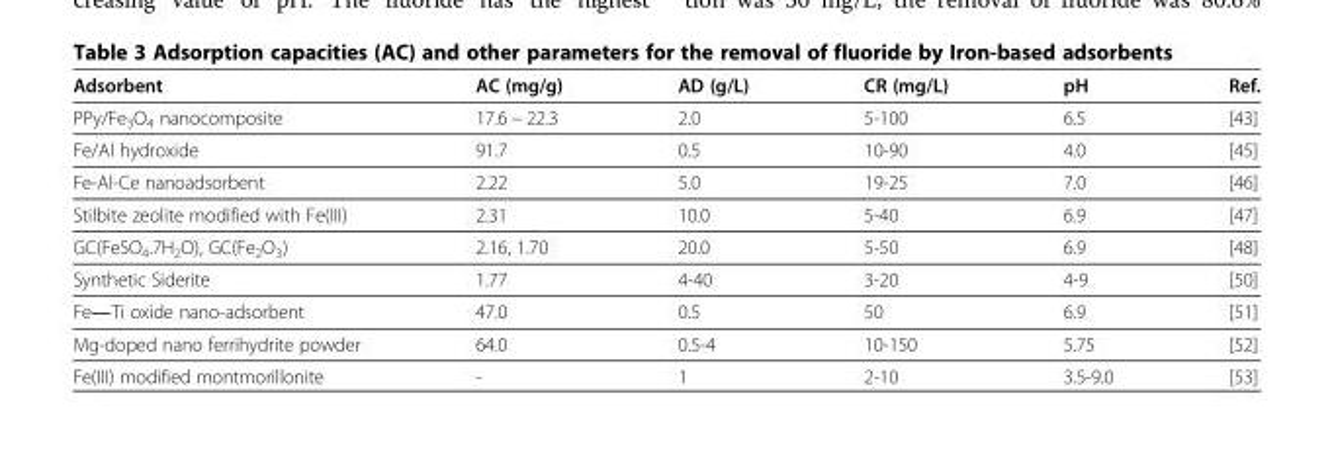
<table><thead><tr><td>Adsorbent</td><td>AC (mg/g)</td><td>AD (g/L)</td><td>CR (mg/L)</td><td>pH</td><td>Ref.</td></tr></thead><tbody><tr><td>PPy/Fe<sub>3</sub>O<sub>4</sub> nanocomposite</td><td>17.6 − 22.3</td><td>2.0</td><td>5-100</td><td>6.5</td><td>[43]</td></tr><tr><td>Fe/Al hydroxide</td><td>91.7</td><td>0.5</td><td>10-90</td><td>4.0</td><td>[45]</td></tr><tr><td>Fe-Al-Ce nanoadsorbent</td><td>2.22</td><td>5.0</td><td>19-25</td><td>7.0</td><td>[46]</td></tr><tr><td>Stilbite zeolite modified with Fe(III)</td><td>2.31</td><td>10.0</td><td>5-40</td><td>6.9</td><td>[47]</td></tr><tr><td>GC(FeSO<sub>4</sub>.7H<sub>2</sub>O), GC(Fe<sub>2</sub>O<sub>3</sub>)</td><td>2.16, 1.70</td><td>20.0</td><td>5-50</td><td>6.9</td><td>[48]</td></tr><tr><td>Synthetic Siderite</td><td>1.77</td><td>4-40</td><td>3-20</td><td>4-9</td><td>[50]</td></tr><tr><td>Fe―Ti oxide nano-adsorbent</td><td>47.0</td><td>0.5</td><td>50</td><td>6.9</td><td>[51]</td></tr><tr><td>Mg-doped nano ferrihydrite powder</td><td>64.0</td><td>0.5-4</td><td>10-150</td><td>5.75</td><td>[52]</td></tr><tr><td>Fe(III) modified montmorillonite</td><td>-</td><td>1</td><td>2-10</td><td>3.5-9.0</td><td>[53]</td></tr></tbody></table>